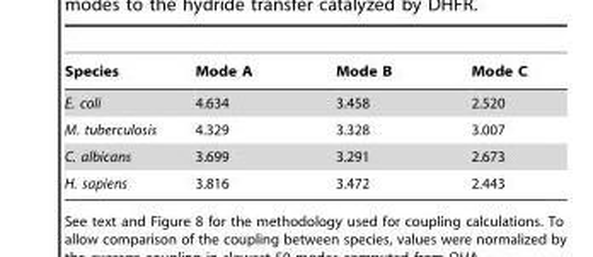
<table><thead><tr><td>Species</td><td>Mode A</td><td>Mode B</td><td>Mode C</td></tr></thead><tbody><tr><td>E. coli</td><td>4.634</td><td>3.458</td><td>2.520</td></tr><tr><td>M. tuberculosis</td><td>4.329</td><td>3.328</td><td>3.007</td></tr><tr><td>C. albicans</td><td>3.699</td><td>3.291</td><td>2.673</td></tr><tr><td>H. sapiens</td><td>3.816</td><td>3.472</td><td>2.443</td></tr></tbody></table>